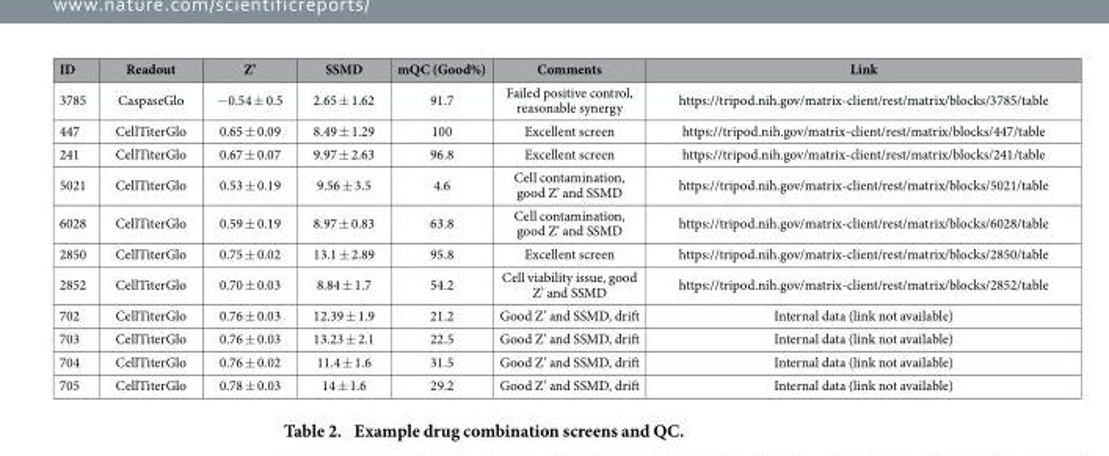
<table><thead><tr><td>ID</td><td>Readout</td><td>Z’</td><td>SSMD</td><td>mQC (Good%)</td><td>Comments</td><td>Link</td></tr></thead><tbody><tr><td>3785</td><td>CaspaseGlo</td><td>− 0.54 ± 0.5</td><td>2.65 ± 1.62</td><td>91.7</td><td>Failed positive control, reasonable synergy</td><td>https://tripod.nih.gov/matrix-client/rest/matrix/blocks/3785/table</td></tr><tr><td>447</td><td>CellTiterGlo</td><td>0.65 ± 0.09</td><td>8.49 ± 1.29</td><td>100</td><td>Excellent screen</td><td>https://tripod.nih.gov/matrix-client/rest/matrix/blocks/447/table</td></tr><tr><td>241</td><td>CellTiterGlo</td><td>0.67 ± 0.07</td><td>9.97 ± 2.63</td><td>96.8</td><td>Excellent screen</td><td>https://tripod.nih.gov/matrix-client/rest/matrix/blocks/241/table</td></tr><tr><td>5021</td><td>CellTiterGlo</td><td>0.53 ± 0.19</td><td>9.56 ± 3.5</td><td>4.6</td><td>Cell contamination, good Z’ and SSMD</td><td>https://tripod.nih.gov/matrix-client/rest/matrix/blocks/5021/table</td></tr><tr><td>6028</td><td>CellTiterGlo</td><td>0.59 ± 0.19</td><td>8.97 ± 0.83</td><td>63.8</td><td>Cell contamination, good Z’ and SSMD</td><td>https://tripod.nih.gov/matrix-client/rest/matrix/blocks/6028/table</td></tr><tr><td>2850</td><td>CellTiterGlo</td><td>0.75 ± 0.02</td><td>13.1 ± 2.89</td><td>95.8</td><td>Excellent screen</td><td>https://tripod.nih.gov/matrix-client/rest/matrix/blocks/2850/table</td></tr><tr><td>2852</td><td>CellTiterGlo</td><td>0.70 ± 0.03</td><td>8.84 ± 1.7</td><td>54.2</td><td>Cell viability issue, good Z’ and SSMD</td><td>https://tripod.nih.gov/matrix-client/rest/matrix/blocks/2852/table</td></tr><tr><td>702</td><td>CellTiterGlo</td><td>0.76 ± 0.03</td><td>12.39 ± 1.9</td><td>21.2</td><td>Good Z’ and SSMD, drift</td><td>Internal data (link not available)</td></tr><tr><td>703</td><td>CellTiterGlo</td><td>0.76 ± 0.03</td><td>13.23 ± 2.1</td><td>22.5</td><td>Good Z’ and SSMD, drift</td><td>Internal data (link not available)</td></tr><tr><td>704</td><td>CellTiterGlo</td><td>0.76 ± 0.02</td><td>11.4 ± 1.6</td><td>31.5</td><td>Good Z’ and SSMD, drift</td><td>Internal data (link not available)</td></tr><tr><td>705</td><td>CellTiterGlo</td><td>0.78 ± 0.03</td><td>14 ± 1.6</td><td>29.2</td><td>Good Z’ and SSMD, drift</td><td>Internal data (link not available)</td></tr></tbody></table>